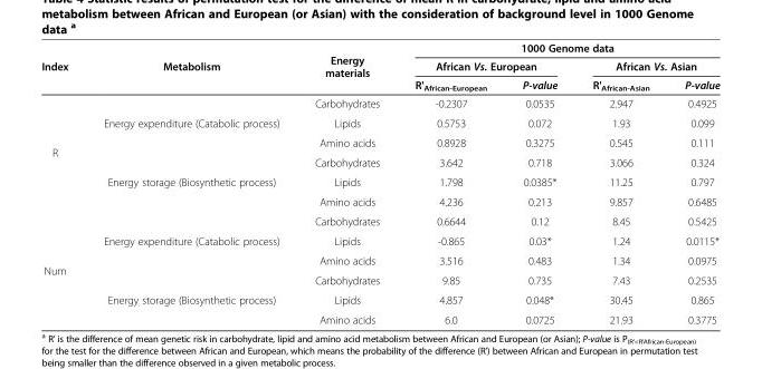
<table><thead><tr><td rowspan="3">Index</td><td rowspan="3">Metabolism</td><td rowspan="3">Energy materials</td><td colspan="4">1000 Genome data</td></tr><tr><td colspan="2">African Vs. European</td><td colspan="2">African Vs. Asian</td></tr><tr><td>R&#x27;<sub>African-European</sub></td><td>P-value</td><td>R&#x27;<sub>African-Asian</sub></td><td>P-value</td></tr></thead><tbody><tr><td rowspan="6">R</td><td rowspan="3">Energy expenditure (Catabolic process)</td><td>Carbohydrates</td><td>-0.2307</td><td>0.0535</td><td>2.947</td><td>0.4925</td></tr><tr><td>Lipids</td><td>0.5753</td><td>0.072</td><td>1.93</td><td>0.099</td></tr><tr><td>Amino acids</td><td>0.8928</td><td>0.3275</td><td>0.545</td><td>0.111</td></tr><tr><td rowspan="3">Energy storage (Biosynthetic process)</td><td>Carbohydrates</td><td>3.642</td><td>0.718</td><td>3.066</td><td>0.324</td></tr><tr><td>Lipids</td><td>1.798</td><td>0.0385*</td><td>11.25</td><td>0.797</td></tr><tr><td>Amino acids</td><td>4.236</td><td>0.213</td><td>9.857</td><td>0.6485</td></tr><tr><td rowspan="6">Num</td><td rowspan="3">Energy expenditure (Catabolic process)</td><td>Carbohydrates</td><td>0.6644</td><td>0.12</td><td>8.45</td><td>0.5425</td></tr><tr><td>Lipids</td><td>-0.865</td><td>0.03*</td><td>1.24</td><td>0.0115*</td></tr><tr><td>Amino acids</td><td>3.516</td><td>0.483</td><td>1.34</td><td>0.0975</td></tr><tr><td rowspan="3">Energy storage (Biosynthetic process)</td><td>Carbohydrates</td><td>9.85</td><td>0.735</td><td>7.43</td><td>0.2535</td></tr><tr><td>Lipids</td><td>4.857</td><td>0.048*</td><td>30.45</td><td>0.865</td></tr><tr><td>Amino acids</td><td>6.0</td><td>0.0725</td><td>21.93</td><td>0.3775</td></tr></tbody></table>